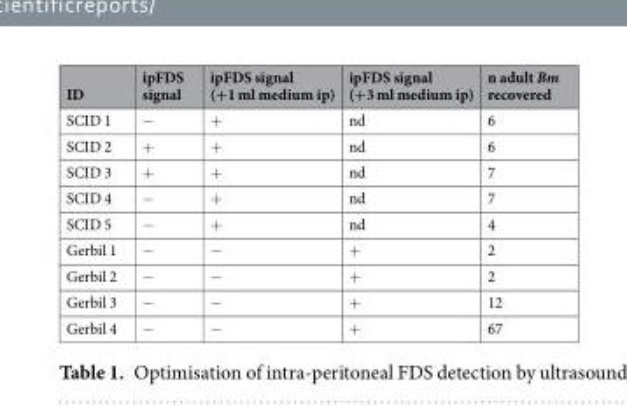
<table><thead><tr><td>ID</td><td>ipFDS signal</td><td>ipFDS signal (+1 ml medium ip)</td><td>ipFDS signal (+3 ml medium ip)</td><td>n adult Bm recovered</td></tr></thead><tbody><tr><td>SCID 1</td><td>−</td><td>+</td><td>nd</td><td>6</td></tr><tr><td>SCID 2</td><td>+</td><td>+</td><td>nd</td><td>6</td></tr><tr><td>SCID 3</td><td>+</td><td>+</td><td>nd</td><td>7</td></tr><tr><td>SCID 4</td><td>−</td><td>+</td><td>nd</td><td>7</td></tr><tr><td>SCID 5</td><td>−</td><td>+</td><td>nd</td><td>4</td></tr><tr><td>Gerbil 1</td><td>−</td><td>−</td><td>+</td><td>2</td></tr><tr><td>Gerbil 2</td><td>−</td><td>−</td><td>+</td><td>2</td></tr><tr><td>Gerbil 3</td><td>−</td><td>−</td><td>+</td><td>12</td></tr><tr><td>Gerbil 4</td><td>−</td><td>−</td><td>+</td><td>67</td></tr></tbody></table>